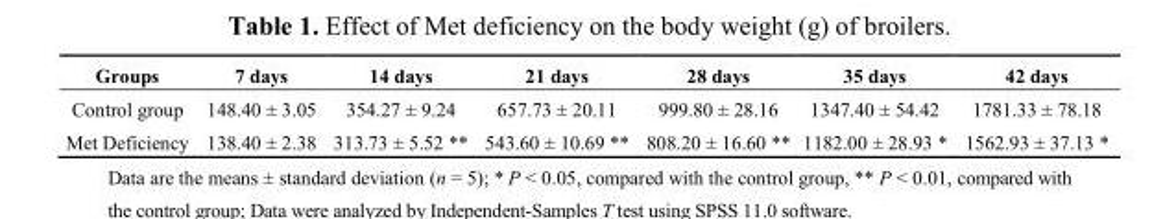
<table><thead><tr><td>Groups</td><td>7 days</td><td>14 days</td><td>21 days</td><td>28 days</td><td>35 days</td><td>42 days</td></tr></thead><tbody><tr><td>Control group</td><td>148.40 ± 3.05</td><td>354.27 ± 9.24</td><td>657.73 ± 20.11</td><td>999.80 ± 28.16</td><td>1347.40 ± 54.42</td><td>1781.33 ± 78.18</td></tr><tr><td>Met Deficiency</td><td>138.40 ± 2.38</td><td>313.73 ± 5.52 **</td><td>543.60 ± 10.69 **</td><td>808.20 ± 16.60 **</td><td>1182.00 ± 28.93 *</td><td>1562.93 ± 37.13 *</td></tr></tbody></table>